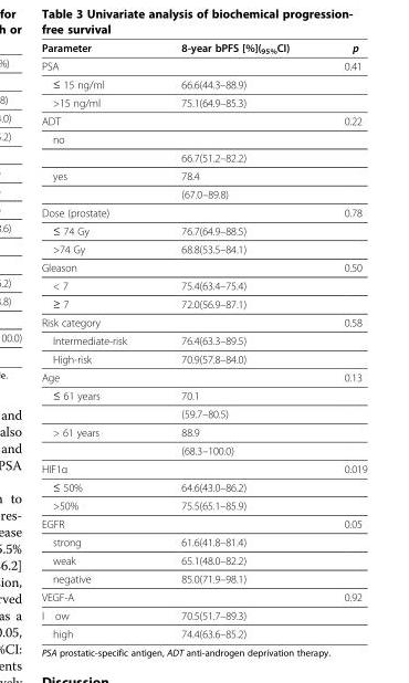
<table><thead><tr><td>Parameter</td><td>8-year bPFS [%](<sub>95%</sub>CI)</td><td>p</td></tr></thead><tbody><tr><td>PSA</td><td></td><td>0.41</td></tr><tr><td>≤ 15 ng/ml</td><td>66.6(44.3–88.9)</td><td></td></tr><tr><td>&gt;15 ng/ml</td><td>75.1(64.9–85.3)</td><td></td></tr><tr><td>ADT</td><td></td><td>0.22</td></tr><tr><td colspan="3">no</td></tr><tr><td></td><td>66.7(51.2–82.2)</td><td></td></tr><tr><td rowspan="2">yes</td><td>78.4</td><td></td></tr><tr><td>(67.0–89.8)</td><td></td></tr><tr><td>Dose (prostate)</td><td></td><td>0.78</td></tr><tr><td>≤ 74 Gy</td><td>76.7(64.9–88.5)</td><td></td></tr><tr><td>&gt;74 Gy</td><td>68.8(53.5–84.1)</td><td></td></tr><tr><td>Gleason</td><td></td><td>0.50</td></tr><tr><td>&lt; 7</td><td>75.4(63.4–75.4)</td><td></td></tr><tr><td>≥ 7</td><td>72.0(56.9–87.1)</td><td></td></tr><tr><td>Risk category</td><td></td><td>0.58</td></tr><tr><td>Intermediate-risk</td><td>76.4(63.3–89.5)</td><td></td></tr><tr><td>High-risk</td><td>70.9(57.8–84.0)</td><td></td></tr><tr><td>Age</td><td></td><td>0.13</td></tr><tr><td rowspan="2">≤ 61 years</td><td>70.1</td><td></td></tr><tr><td>(59.7–80.5)</td><td></td></tr><tr><td rowspan="2">&gt; 61 years</td><td>88.9</td><td></td></tr><tr><td>(68.3–100.0)</td><td></td></tr><tr><td>HIF1α</td><td></td><td>0.019</td></tr><tr><td>≤ 50%</td><td>64.6(43.0–86.2)</td><td></td></tr><tr><td>&gt;50%</td><td>75.5(65.1–85.9)</td><td></td></tr><tr><td>EGFR</td><td></td><td>0.05</td></tr><tr><td>strong</td><td>61.6(41.8–81.4)</td><td></td></tr><tr><td>weak</td><td>65.1(48.0–82.2)</td><td></td></tr><tr><td>negative</td><td>85.0(71.9–98.1)</td><td></td></tr><tr><td>VEGF-A</td><td></td><td>0.92</td></tr><tr><td>l ow</td><td>70.5(51.7–89.3)</td><td></td></tr><tr><td>high</td><td>74.4(63.6–85.2)</td><td></td></tr></tbody></table>